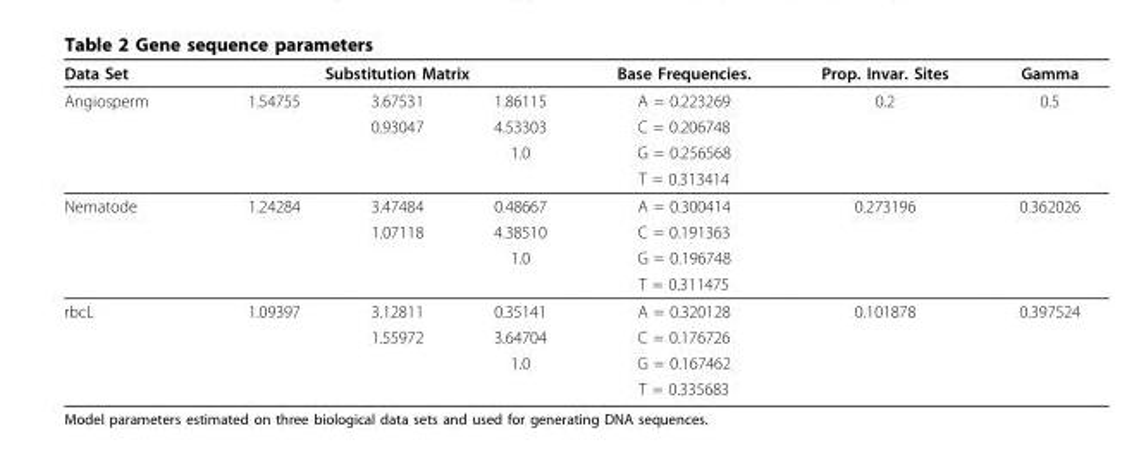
<table><thead><tr><td rowspan="2">Data Set Angiosperm</td><td colspan="3">Substitution Matrix</td><td rowspan="2">Base Frequencies. A = 0.223269</td><td rowspan="2">Prop. Invar. Sites 0.2</td><td rowspan="2">Gamma 0.5</td></tr><tr><td>1.54755</td><td>3.67531</td><td>1.86115</td></tr></thead><tbody><tr><td></td><td></td><td>0.93047</td><td>4.53303</td><td>C = 0.206748</td><td></td><td></td></tr><tr><td></td><td></td><td></td><td>1.0</td><td>G = 0.256568</td><td></td><td></td></tr><tr><td></td><td></td><td></td><td></td><td>T = 0.313414</td><td></td><td></td></tr><tr><td rowspan="4">Nematode</td><td>1.24284</td><td>3.47484</td><td>0.48667</td><td>A = 0.300414</td><td>0.273196</td><td>0.362026</td></tr><tr><td></td><td>1.07118</td><td>4.38510</td><td>C = 0.191363</td><td></td><td></td></tr><tr><td></td><td></td><td>1.0</td><td>G = 0.196748</td><td></td><td></td></tr><tr><td></td><td></td><td></td><td>T = 0.311475</td><td></td><td></td></tr><tr><td rowspan="4">rbcL</td><td>1.09397</td><td>3.12811</td><td>0.35141</td><td>A = 0.320128</td><td>0.101878</td><td>0.397524</td></tr><tr><td></td><td>1.55972</td><td>3.64704</td><td>C = 0.176726</td><td></td><td></td></tr><tr><td></td><td></td><td>1.0</td><td>G = 0.167462</td><td></td><td></td></tr><tr><td></td><td></td><td></td><td>T = 0.335683</td><td></td><td></td></tr></tbody></table>